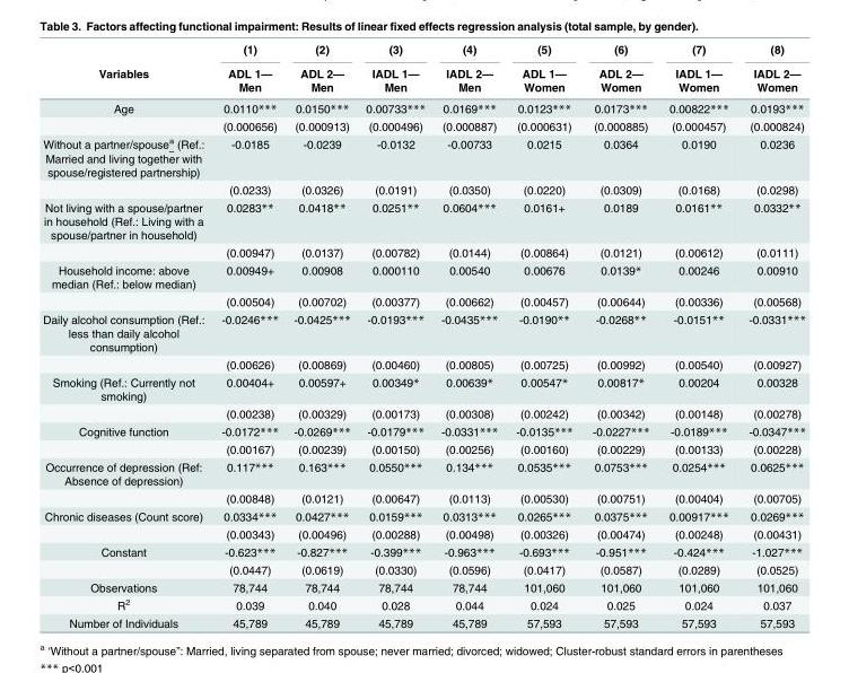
<table><thead><tr><td rowspan="2">Variables</td><td rowspan="2">(1) ADL 1— Men</td><td rowspan="2">(2) ADL 2— Men</td><td rowspan="2">(3) IADL 1— Men</td><td rowspan="2">(4) IADL 2— Men</td><td rowspan="2">(5) ADL 1— Women</td><td rowspan="2">(6) ADL 2— Women</td><td rowspan="2">(7) IADL 1— Women</td><td rowspan="2">(8) IADL 2— Women</td></tr><tr></tr></thead><tbody><tr><td rowspan="2">Age</td><td>0.0110***</td><td>0.0150***</td><td>0.00733***</td><td>0.0169***</td><td>0.0123***</td><td>0.0173***</td><td>0.00822***</td><td>0.0193***</td></tr><tr><td>(0.000656)</td><td>(0.000913)</td><td>(0.000496)</td><td>(0.000887)</td><td>(0.000631)</td><td>(0.000885)</td><td>(0.000457)</td><td>(0.000824)</td></tr><tr><td rowspan="2">Without a partner/spouse<sup>a</sup> (Ref.: Married and living together with spouse/registered partnership)</td><td>-0.0185</td><td>-0.0239</td><td>-0.0132</td><td>-0.00733</td><td>0.0215</td><td>0.0364</td><td>0.0190</td><td>0.0236</td></tr><tr><td>(0.0233)</td><td>(0.0326)</td><td>(0.0191)</td><td>(0.0350)</td><td>(0.0220)</td><td>(0.0309)</td><td>(0.0168)</td><td>(0.0298)</td></tr><tr><td rowspan="2">Not living with a spouse/partner in household (Ref.: Living with a spouse/partner in household)</td><td>0.0283**</td><td>0.0418**</td><td>0.0251**</td><td>0.0604***</td><td>0.0161+</td><td>0.0189</td><td>0.0161**</td><td>0.0332**</td></tr><tr><td>(0.00947)</td><td>(0.0137)</td><td>(0.00782)</td><td>(0.0144)</td><td>(0.00864)</td><td>(0.0121)</td><td>(0.00612)</td><td>(0.0111)</td></tr><tr><td rowspan="2">Household income: above median (Ref.: below median)</td><td>0.00949+</td><td>0.00908</td><td>0.000110</td><td>0.00540</td><td>0.00676</td><td>0.0139*</td><td>0.00246</td><td>0.00910</td></tr><tr><td>(0.00504)</td><td>(0.00702)</td><td>(0.00377)</td><td>(0.00662)</td><td>(0.00457)</td><td>(0.00644)</td><td>(0.00336)</td><td>(0.00568)</td></tr><tr><td rowspan="2">Daily alcohol consumption (Ref.: less than daily alcohol consumption)</td><td>-0.0246***</td><td>-0.0425***</td><td>-0.0193***</td><td>-0.0435***</td><td>-0.0190**</td><td>-0.0268**</td><td>-0.0151**</td><td>-0.0331***</td></tr><tr><td>(0.00626)</td><td>(0.00869)</td><td>(0.00460)</td><td>(0.00805)</td><td>(0.00725)</td><td>(0.00992)</td><td>(0.00540)</td><td>(0.00927)</td></tr><tr><td rowspan="2">Smoking (Ref.: Currently not smoking)</td><td>0.00404+</td><td>0.00597+</td><td>0.00349*</td><td>0.00639*</td><td>0.00547*</td><td>0.00817*</td><td>0.00204</td><td>0.00328</td></tr><tr><td>(0.00238)</td><td>(0.00329)</td><td>(0.00173)</td><td>(0.00308)</td><td>(0.00242)</td><td>(0.00342)</td><td>(0.00148)</td><td>(0.00278)</td></tr><tr><td rowspan="2">Cognitive function</td><td>-0.0172***</td><td>-0.0269***</td><td>-0.0179***</td><td>-0.0331***</td><td>-0.0135***</td><td>-0.0227***</td><td>-0.0189***</td><td>-0.0347***</td></tr><tr><td>(0.00167)</td><td>(0.00239)</td><td>(0.00150)</td><td>(0.00256)</td><td>(0.00160)</td><td>(0.00229)</td><td>(0.00133)</td><td>(0.00228)</td></tr><tr><td rowspan="2">Occurrence of depression (Ref: Absence of depression)</td><td>0.117***</td><td>0.163***</td><td>0.0550***</td><td>0.134***</td><td>0.0535***</td><td>0.0753***</td><td>0.0254***</td><td>0.0625***</td></tr><tr><td>(0.00848)</td><td>(0.0121)</td><td>(0.00647)</td><td>(0.0113)</td><td>(0.00530)</td><td>(0.00751)</td><td>(0.00404)</td><td>(0.00705)</td></tr><tr><td rowspan="2">Chronic diseases (Count score)</td><td>0.0334***</td><td>0.0427***</td><td>0.0159***</td><td>0.0313***</td><td>0.0265***</td><td>0.0375***</td><td>0.00917***</td><td>0.0269***</td></tr><tr><td>(0.00343)</td><td>(0.00496)</td><td>(0.00288)</td><td>(0.00498)</td><td>(0.00326)</td><td>(0.00474)</td><td>(0.00248)</td><td>(0.00431)</td></tr><tr><td rowspan="2">Constant</td><td>-0.623***</td><td>-0.827***</td><td>-0.399***</td><td>-0.963***</td><td>-0.693***</td><td>-0.951***</td><td>-0.424***</td><td>-1.027***</td></tr><tr><td>(0.0447)</td><td>(0.0619)</td><td>(0.0330)</td><td>(0.0596)</td><td>(0.0417)</td><td>(0.0587)</td><td>(0.0289)</td><td>(0.0525)</td></tr><tr><td>Observations</td><td>78,744</td><td>78,744</td><td>78,744</td><td>78,744</td><td>101,060</td><td>101,060</td><td>101,060</td><td>101,060</td></tr><tr><td>R<sup>2</sup></td><td>0.039</td><td>0.040</td><td>0.028</td><td>0.044</td><td>0.024</td><td>0.025</td><td>0.024</td><td>0.037</td></tr><tr><td>Number of Individuals</td><td>45,789</td><td>45,789</td><td>45,789</td><td>45,789</td><td>57,593</td><td>57,593</td><td>57,593</td><td>57,593</td></tr></tbody></table>